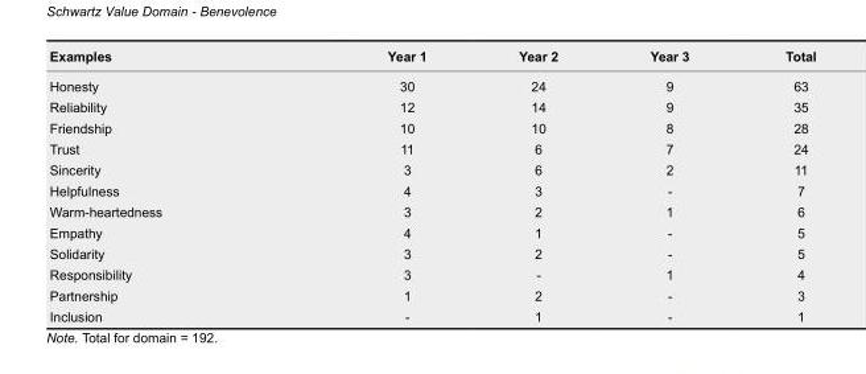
<table><thead><tr><td>Examples</td><td>Year 1</td><td>Year 2</td><td>Year 3</td><td>Total</td></tr></thead><tbody><tr><td>Honesty</td><td>30</td><td>24</td><td>9</td><td>63</td></tr><tr><td>Reliability</td><td>12</td><td>14</td><td>9</td><td>35</td></tr><tr><td>Friendship</td><td>10</td><td>10</td><td>8</td><td>28</td></tr><tr><td>Trust</td><td>11</td><td>6</td><td>7</td><td>24</td></tr><tr><td>Sincerity</td><td>3</td><td>6</td><td>2</td><td>11</td></tr><tr><td>Helpfulness</td><td>4</td><td>3</td><td>-</td><td>7</td></tr><tr><td>Warm-heartedness</td><td>3</td><td>2</td><td>1</td><td>6</td></tr><tr><td>Empathy</td><td>4</td><td>1</td><td>-</td><td>5</td></tr><tr><td>Solidarity</td><td>3</td><td>2</td><td>-</td><td>5</td></tr><tr><td>Responsibility</td><td>3</td><td>-</td><td>1</td><td>4</td></tr><tr><td>Partnership</td><td>1</td><td>2</td><td>-</td><td>3</td></tr><tr><td>Inclusion</td><td>-</td><td>1</td><td>-</td><td>1</td></tr></tbody></table>